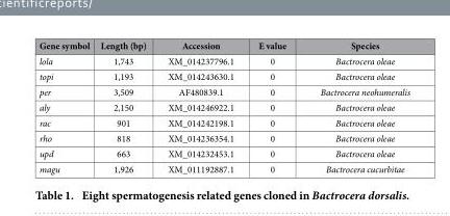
<table><thead><tr><td>Gene symbol</td><td>Length (bp)</td><td>Accession</td><td>E value</td><td>Species</td></tr></thead><tbody><tr><td>lola</td><td>1,743</td><td>XM_014237796.1</td><td>0</td><td>Bactrocera oleae</td></tr><tr><td>topi</td><td>1,193</td><td>XM_014243630.1</td><td>0</td><td>Bactrocera oleae</td></tr><tr><td>per</td><td>3,509</td><td>AF480839.1</td><td>0</td><td>Bactrocera neohumeralis</td></tr><tr><td>aly</td><td>2,150</td><td>XM_014246922.1</td><td>0</td><td>Bactrocera oleae</td></tr><tr><td>rac</td><td>901</td><td>XM_014242198.1</td><td>0</td><td>Bactrocera oleae</td></tr><tr><td>rho</td><td>818</td><td>XM_014236354.1</td><td>0</td><td>Bactrocera oleae</td></tr><tr><td>upd</td><td>663</td><td>XM_014232453.1</td><td>0</td><td>Bactrocera oleae</td></tr><tr><td>magu</td><td>1,926</td><td>XM_011192887.1</td><td>0</td><td>Bactrocera cucurbitae</td></tr></tbody></table>